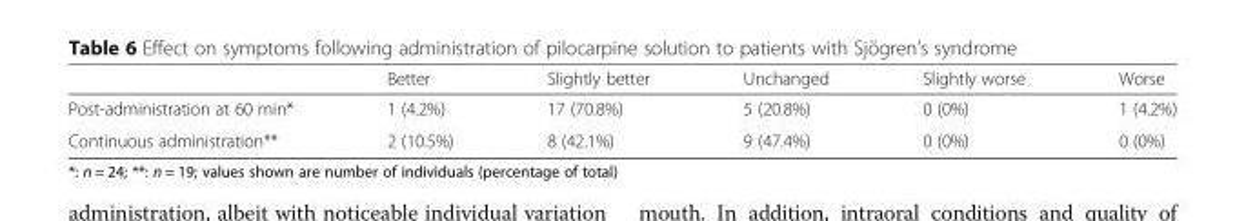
<table><thead><tr><td></td><td>Better</td><td>Slightly better</td><td>Unchanged</td><td>Slightly worse</td><td>Worse</td></tr></thead><tbody><tr><td>Post-administration at 60 min*</td><td>1 (4.2%)</td><td>17 (70.8%)</td><td>5 (20.8%)</td><td>0 (0%)</td><td>1 (4.2%)</td></tr><tr><td>Continuous administration**</td><td>2 (10.5%)</td><td>8 (42.1%)</td><td>9 (47.4%)</td><td>0 (0%)</td><td>0 (0%)</td></tr></tbody></table>